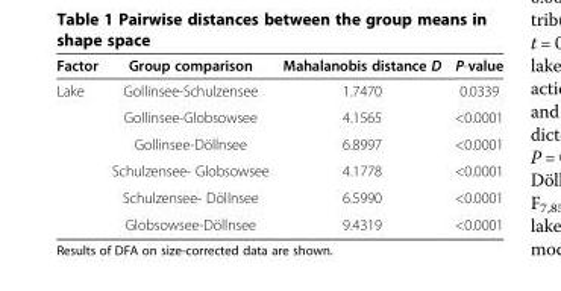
<table><thead><tr><td>Factor</td><td>Group comparison</td><td>Mahalanobis distance D</td><td>P-value</td></tr></thead><tbody><tr><td rowspan="6">Lake</td><td>Gollinsee-Schulzensee</td><td>1.7470</td><td>0.0339</td></tr><tr><td>Gollinsee-Globsowsee</td><td>4.1565</td><td>&lt;0.0001</td></tr><tr><td>Gollinsee-Döllnsee</td><td>6.8997</td><td>&lt;0.0001</td></tr><tr><td>Schulzensee- Globsowsee</td><td>4.1778</td><td>&lt;0.0001</td></tr><tr><td>Schulzensee- Döllnsee</td><td>6.5990</td><td>&lt;0.0001</td></tr><tr><td>Globsowsee-Döllnsee</td><td>9.4319</td><td>&lt;0.0001</td></tr></tbody></table>